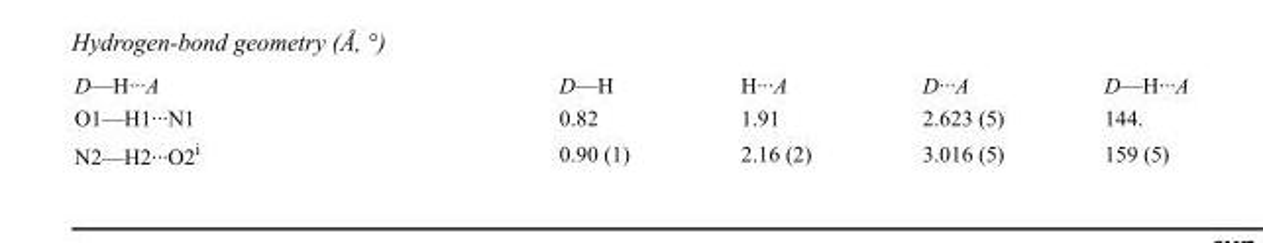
<table><tbody><tr><td>D—H···A</td><td>D—H</td><td>H···A</td><td>D···A</td><td>D—H···A</td></tr><tr><td>O1—H1···N1</td><td>0.82</td><td>1.91</td><td>2.623 (5)</td><td>144.</td></tr><tr><td>N2—H2···O2<sup>i</sup></td><td>0.90 (1)</td><td>2.16 (2)</td><td>3.016 (5)</td><td>159 (5)</td></tr></tbody></table>